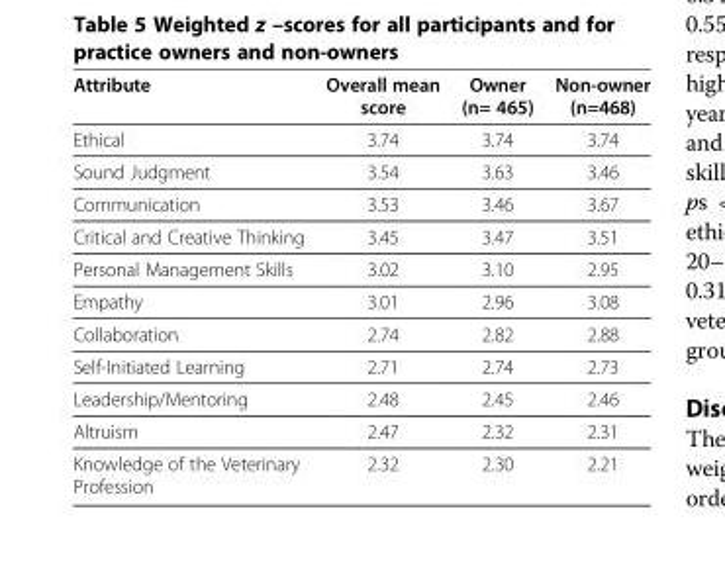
<table><thead><tr><td>Attribute</td><td>Overall mean score</td><td>Owner (n= 465)</td><td>Non-owner (n=468)</td></tr></thead><tbody><tr><td>Ethical</td><td>3.74</td><td>3.74</td><td>3.74</td></tr><tr><td>Sound Judgment</td><td>3.54</td><td>3.63</td><td>3.46</td></tr><tr><td>Communication</td><td>3.53</td><td>3.46</td><td>3.67</td></tr><tr><td>Critical and Creative Thinking</td><td>3.45</td><td>3.47</td><td>3.51</td></tr><tr><td>Personal Management Skills</td><td>3.02</td><td>3.10</td><td>2.95</td></tr><tr><td>Empathy</td><td>3.01</td><td>2.96</td><td>3.08</td></tr><tr><td>Collaboration</td><td>2.74</td><td>2.82</td><td>2.88</td></tr><tr><td>Self-Initiated Learning</td><td>2.71</td><td>2.74</td><td>2.73</td></tr><tr><td>Leadership/Mentoring</td><td>2.48</td><td>2.45</td><td>2.46</td></tr><tr><td>Altruism</td><td>2.47</td><td>2.32</td><td>2.31</td></tr><tr><td>Knowledge of the Veterinary Profession</td><td>2.32</td><td>2.30</td><td>2.21</td></tr></tbody></table>